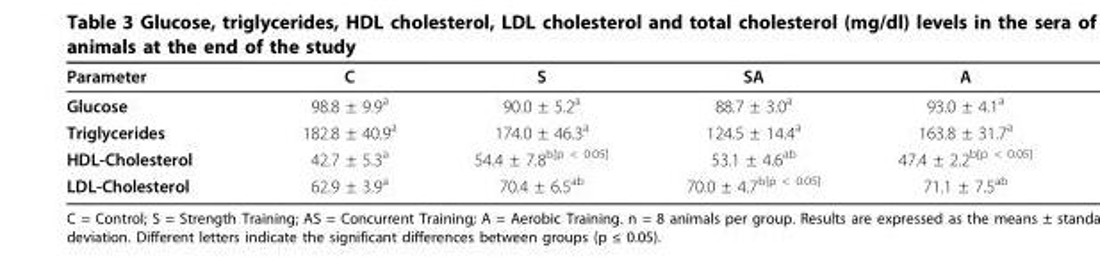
<table><thead><tr><td>Parameter</td><td>C</td><td>S</td><td>SA</td><td>A</td></tr></thead><tbody><tr><td>Glucose</td><td>98.8 ± 9.9<sup>a</sup></td><td>90.0 ± 5.2<sup>a</sup></td><td>88.7 ± 3.0<sup>a</sup></td><td>93.0 ± 4.1<sup>a</sup></td></tr><tr><td>Triglycerides</td><td>182.8 ± 40.9<sup>a</sup></td><td>174.0 ± 46.3<sup>a</sup></td><td>124.5 ± 14.4<sup>a</sup></td><td>163.8 ± 31.7<sup>a</sup></td></tr><tr><td>HDL-Cholesterol</td><td>42.7 ± 5.3<sup>a</sup></td><td>54.4 ± 7.8<sup>b[p &lt; 0.05]</sup></td><td>53.1 ± 4.6<sup>ab</sup></td><td>47.4 ± 2.2<sup>b[p &lt; 0.05]</sup></td></tr><tr><td>LDL-Cholesterol</td><td>62.9 ± 3.9<sup>a</sup></td><td>70.4 ± 6.5<sup>ab</sup></td><td>70.0 ± 4.7<sup>b[p &lt; 0.05]</sup></td><td>71.1 ± 7.5<sup>ab</sup></td></tr></tbody></table>